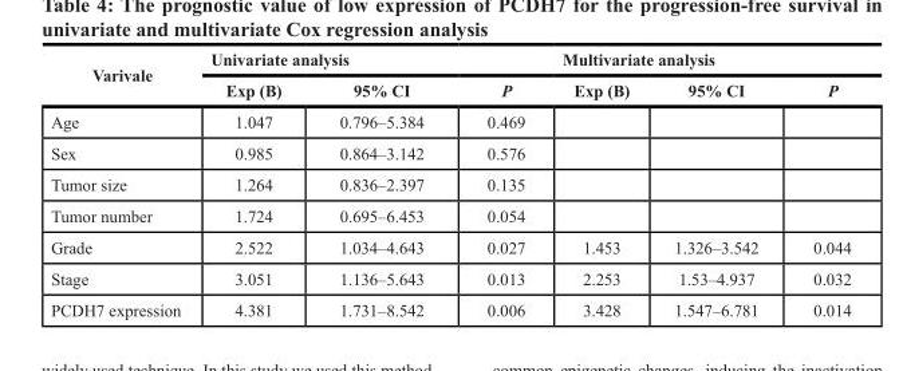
<table><thead><tr><td rowspan="2">Varivale</td><td colspan="3">Univariate analysis</td><td colspan="3">Multivariate analysis</td></tr><tr><td>Exp (B)</td><td>95% CI</td><td>P</td><td>Exp (B)</td><td>95% CI</td><td>P</td></tr></thead><tbody><tr><td>Age</td><td>1.047</td><td>0.796–5.384</td><td>0.469</td><td></td><td></td><td></td></tr><tr><td>Sex</td><td>0.985</td><td>0.864–3.142</td><td>0.576</td><td></td><td></td><td></td></tr><tr><td>Tumor size</td><td>1.264</td><td>0.836–2.397</td><td>0.135</td><td></td><td></td><td></td></tr><tr><td>Tumor number</td><td>1.724</td><td>0.695–6.453</td><td>0.054</td><td></td><td></td><td></td></tr><tr><td>Grade</td><td>2.522</td><td>1.034–4.643</td><td>0.027</td><td>1.453</td><td>1.326–3.542</td><td>0.044</td></tr><tr><td>Stage</td><td>3.051</td><td>1.136–5.643</td><td>0.013</td><td>2.253</td><td>1.53–4.937</td><td>0.032</td></tr><tr><td>PCDH7 expression</td><td>4.381</td><td>1.731–8.542</td><td>0.006</td><td>3.428</td><td>1.547–6.781</td><td>0.014</td></tr></tbody></table>